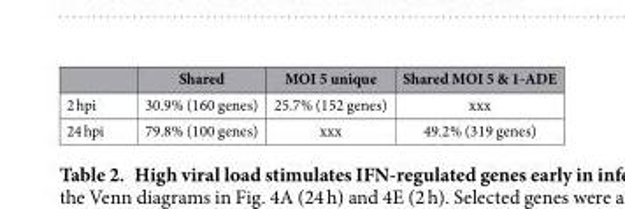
<table><thead><tr><td></td><td>Shared</td><td>MOI 5 unique</td><td>Shared MOI 5 &amp; 1-ADE</td></tr></thead><tbody><tr><td>2 hpi</td><td>30.9% (160 genes)</td><td>25.7% (152 genes)</td><td>xxx</td></tr><tr><td>24 hpi</td><td>79.8% (100 genes)</td><td>xxx</td><td>49.2% (319 genes)</td></tr></tbody></table>